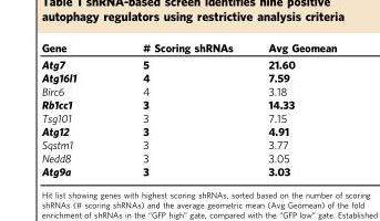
<table><thead><tr><td>Gene</td><td># Scoring shRNAs</td><td>Avg Geomean</td></tr></thead><tbody><tr><td>Atg7</td><td>5</td><td>21.60</td></tr><tr><td>Atg16l1</td><td>4</td><td>7.59</td></tr><tr><td>Birc6</td><td>4</td><td>3.18</td></tr><tr><td>Rb1cc1</td><td>3</td><td>14.33</td></tr><tr><td>Tsg101</td><td>3</td><td>7.15</td></tr><tr><td>Atg12</td><td>3</td><td>4.91</td></tr><tr><td>Sqstm1</td><td>3</td><td>3.77</td></tr><tr><td>Nedd8</td><td>3</td><td>3.05</td></tr><tr><td>Atg9a</td><td>3</td><td>3.03</td></tr></tbody></table>